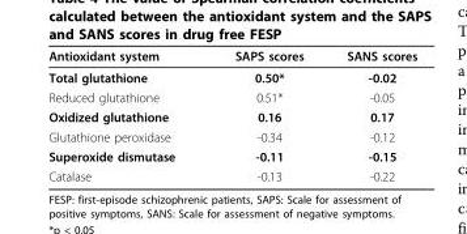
<table><thead><tr><td>Antioxidant system</td><td>SAPS scores</td><td>SANS scores</td></tr></thead><tbody><tr><td>Total glutathione</td><td>0.50*</td><td>-0.02</td></tr><tr><td>Reduced glutathione</td><td>0.51*</td><td>-0.05</td></tr><tr><td>Oxidized glutathione</td><td>0.16</td><td>0.17</td></tr><tr><td>Glutathione peroxidase</td><td>-0.34</td><td>-0.12</td></tr><tr><td>Superoxide dismutase</td><td>-0.11</td><td>-0.15</td></tr><tr><td>Catalase</td><td>-0.13</td><td>-0.22</td></tr></tbody></table>